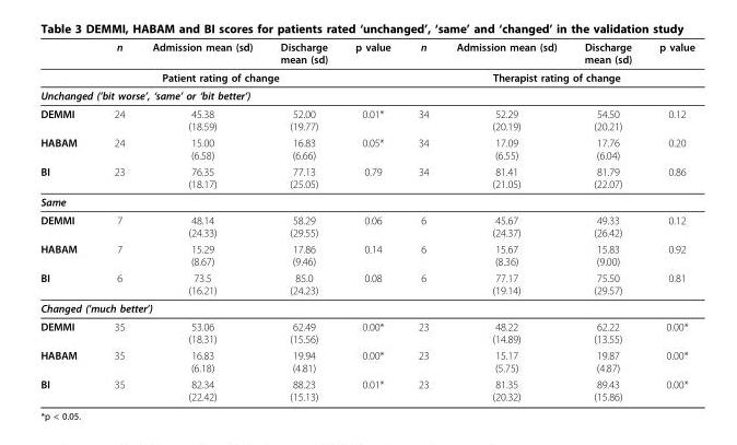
<table><thead><tr><td></td><td>n</td><td>Admission mean (sd)</td><td>Discharge mean (sd)</td><td>p value</td><td>n</td><td>Admission mean (sd)</td><td>Discharge mean (sd)</td><td>p value</td></tr></thead><tbody><tr><td colspan="5">Patient rating of change</td><td colspan="4">Therapist rating of change</td></tr><tr><td colspan="9">Unchanged (’bit worse’, ‘same’ or ‘bit better’)</td></tr><tr><td>DEMMI</td><td>24</td><td>45.38 (18.59)</td><td>52.00 (19.77)</td><td>0.01*</td><td>34</td><td>52.29 (20.19)</td><td>54.50 (20.21)</td><td>0.12</td></tr><tr><td>HABAM</td><td>24</td><td>15.00 (6.58)</td><td>16.83 (6.66)</td><td>0.05*</td><td>34</td><td>17.09 (6.55)</td><td>17.76 (6.04)</td><td>0.20</td></tr><tr><td>BI</td><td>23</td><td>76.35 (18.17)</td><td>77.13 (25.05)</td><td>0.79</td><td>34</td><td>81.41 (21.05)</td><td>81.79 (22.07)</td><td>0.86</td></tr><tr><td colspan="9">Same</td></tr><tr><td>DEMMI</td><td>7</td><td>48.14 (24.33)</td><td>58.29 (29.55)</td><td>0.06</td><td>6</td><td>45.67 (24.37)</td><td>49.33 (26.42)</td><td>0.12</td></tr><tr><td>HABAM</td><td>7</td><td>15.29 (8.67)</td><td>17.86 (9.46)</td><td>0.14</td><td>6</td><td>15.67 (8.36)</td><td>15.83 (9.00)</td><td>0.92</td></tr><tr><td>BI</td><td>6</td><td>73.5 (16.21)</td><td>85.0 (24.23)</td><td>0.08</td><td>6</td><td>77.17 (19.14)</td><td>75.50 (29.57)</td><td>0.81</td></tr><tr><td colspan="9">Changed (’much better’)</td></tr><tr><td>DEMMI</td><td>35</td><td>53.06 (18.31)</td><td>62.49 (15.56)</td><td>0.00*</td><td>23</td><td>48.22 (14.89)</td><td>62.22 (13.55)</td><td>0.00*</td></tr><tr><td>HABAM</td><td>35</td><td>16.83 (6.18)</td><td>19.94 (4.81)</td><td>0.00*</td><td>23</td><td>15.17 (5.75)</td><td>19.87 (4.87)</td><td>0.00*</td></tr><tr><td>BI</td><td>35</td><td>82.34 (22.42)</td><td>88.23 (15.13)</td><td>0.01*</td><td>23</td><td>81.35 (20.32)</td><td>89.43 (15.86)</td><td>0.00*</td></tr></tbody></table>